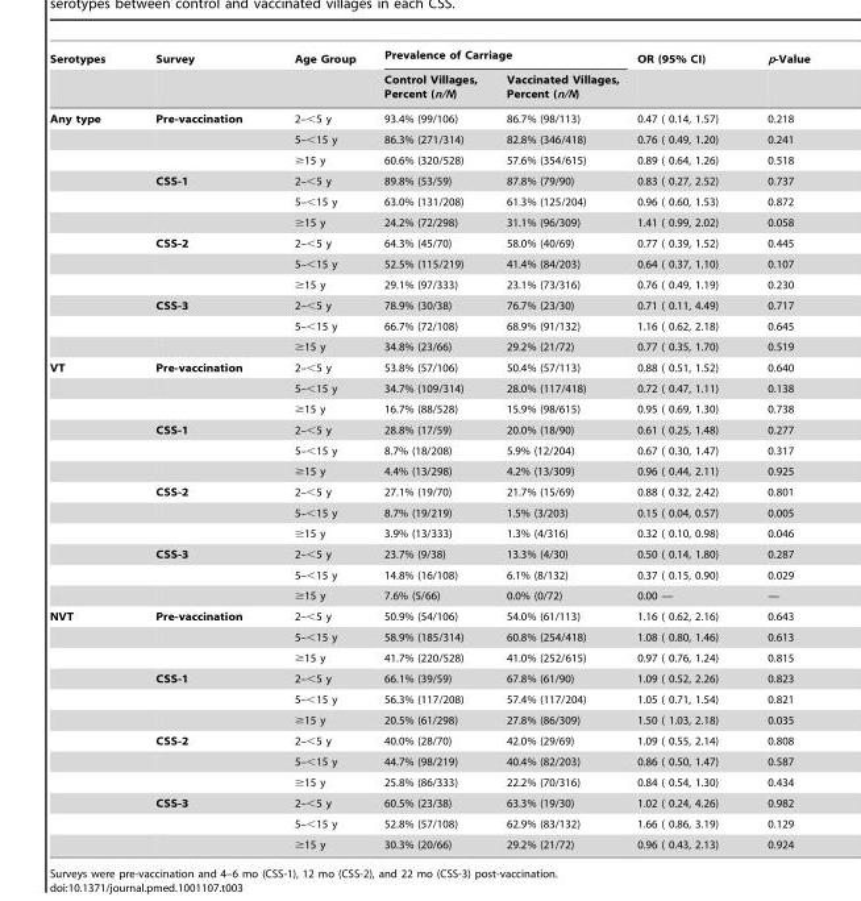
<table><thead><tr><td rowspan="2">Serotypes</td><td rowspan="2">Survey</td><td rowspan="2">Age Group</td><td colspan="2">Prevalence of Carriage</td><td rowspan="2">OR (95% CI)</td><td rowspan="2">p-Value</td></tr><tr><td>Control Villages, Percent (n/N)</td><td>Vaccinated Villages, Percent (n/N)</td></tr></thead><tbody><tr><td rowspan="12">Any type</td><td>Pre-vaccination</td><td>2–&lt;5 y</td><td>93.4% (99/106)</td><td>86.7% (98/113)</td><td>0.47 ( 0.14, 1.57)</td><td>0.218</td></tr><tr><td></td><td>5–&lt;15 y</td><td>86.3% (271/314)</td><td>82.8% (346/418)</td><td>0.76 ( 0.49, 1.20)</td><td>0.241</td></tr><tr><td></td><td>≥15 y</td><td>60.6% (320/528)</td><td>57.6% (354/615)</td><td>0.89 ( 0.64, 1.26)</td><td>0.518</td></tr><tr><td>CSS-1</td><td>2–&lt;5 y</td><td>89.8% (53/59)</td><td>87.8% (79/90)</td><td>0.83 ( 0.27, 2.52)</td><td>0.737</td></tr><tr><td></td><td>5–&lt;15 y</td><td>63.0% (131/208)</td><td>61.3% (125/204)</td><td>0.96 ( 0.60, 1.53)</td><td>0.872</td></tr><tr><td></td><td>≥15 y</td><td>24.2% (72/298)</td><td>31.1% (96/309)</td><td>1.41 ( 0.99, 2.02)</td><td>0.058</td></tr><tr><td>CSS-2</td><td>2–&lt;5 y</td><td>64.3% (45/70)</td><td>58.0% (40/69)</td><td>0.77 ( 0.39, 1.52)</td><td>0.445</td></tr><tr><td></td><td>5–&lt;15 y</td><td>52.5% (115/219)</td><td>41.4% (84/203)</td><td>0.64 ( 0.37, 1.10)</td><td>0.107</td></tr><tr><td></td><td>≥15 y</td><td>29.1% (97/333)</td><td>23.1% (73/316)</td><td>0.76 ( 0.49, 1.19)</td><td>0.230</td></tr><tr><td>CSS-3</td><td>2–&lt;5 y</td><td>78.9% (30/38)</td><td>76.7% (23/30)</td><td>0.71 ( 0.11, 4.49)</td><td>0.717</td></tr><tr><td></td><td>5–&lt;15 y</td><td>66.7% (72/108)</td><td>68.9% (91/132)</td><td>1.16 ( 0.62, 2.18)</td><td>0.645</td></tr><tr><td></td><td>≥15 y</td><td>34.8% (23/66)</td><td>29.2% (21/72)</td><td>0.77 ( 0.35, 1.70)</td><td>0.519</td></tr><tr><td rowspan="12">VT</td><td>Pre-vaccination</td><td>2–&lt;5 y</td><td>53.8% (57/106)</td><td>50.4% (57/113)</td><td>0.88 ( 0.51, 1.52)</td><td>0.640</td></tr><tr><td></td><td>5–&lt;15 y</td><td>34.7% (109/314)</td><td>28.0% (117/418)</td><td>0.72 ( 0.47, 1.11)</td><td>0.138</td></tr><tr><td></td><td>≥15 y</td><td>16.7% (88/528)</td><td>15.9% (98/615)</td><td>0.95 ( 0.69, 1.30)</td><td>0.738</td></tr><tr><td>CSS-1</td><td>2–&lt;5 y</td><td>28.8% (17/59)</td><td>20.0% (18/90)</td><td>0.61 ( 0.25, 1.48)</td><td>0.277</td></tr><tr><td></td><td>5–&lt;15 y</td><td>8.7% (18/208)</td><td>5.9% (12/204)</td><td>0.67 ( 0.30, 1.47)</td><td>0.317</td></tr><tr><td></td><td>≥15 y</td><td>4.4% (13/298)</td><td>4.2% (13/309)</td><td>0.96 ( 0.44, 2.11)</td><td>0.925</td></tr><tr><td>CSS-2</td><td>2–&lt;5 y</td><td>27.1% (19/70)</td><td>21.7% (15/69)</td><td>0.88 ( 0.32, 2.42)</td><td>0.801</td></tr><tr><td></td><td>5–&lt;15 y</td><td>8.7% (19/219)</td><td>1.5% (3/203)</td><td>0.15 ( 0.04, 0.57)</td><td>0.005</td></tr><tr><td></td><td>≥15 y</td><td>3.9% (13/333)</td><td>1.3% (4/316)</td><td>0.32 ( 0.10, 0.98)</td><td>0.046</td></tr><tr><td>CSS-3</td><td>2–&lt;5 y</td><td>23.7% (9/38)</td><td>13.3% (4/30)</td><td>0.50 ( 0.14, 1.80)</td><td>0.287</td></tr><tr><td></td><td>5–&lt;15 y</td><td>14.8% (16/108)</td><td>6.1% (8/132)</td><td>0.37 ( 0.15, 0.90)</td><td>0.029</td></tr><tr><td></td><td>≥15 y</td><td>7.6% (5/66)</td><td>0.0% (0/72)</td><td>0.00 —</td><td>—</td></tr><tr><td rowspan="12">NVT</td><td>Pre-vaccination</td><td>2–&lt;5 y</td><td>50.9% (54/106)</td><td>54.0% (61/113)</td><td>1.16 ( 0.62, 2.16)</td><td>0.643</td></tr><tr><td></td><td>5–&lt;15 y</td><td>58.9% (185/314)</td><td>60.8% (254/418)</td><td>1.08 ( 0.80, 1.46)</td><td>0.613</td></tr><tr><td></td><td>≥15 y</td><td>41.7% (220/528)</td><td>41.0% (252/615)</td><td>0.97 ( 0.76, 1.24)</td><td>0.815</td></tr><tr><td>CSS-1</td><td>2–&lt;5 y</td><td>66.1% (39/59)</td><td>67.8% (61/90)</td><td>1.09 ( 0.52, 2.26)</td><td>0.823</td></tr><tr><td></td><td>5–&lt;15 y</td><td>56.3% (117/208)</td><td>57.4% (117/204)</td><td>1.05 ( 0.71, 1.54)</td><td>0.821</td></tr><tr><td></td><td>≥15 y</td><td>20.5% (61/298)</td><td>27.8% (86/309)</td><td>1.50 ( 1.03, 2.18)</td><td>0.035</td></tr><tr><td>CSS-2</td><td>2–&lt;5 y</td><td>40.0% (28/70)</td><td>42.0% (29/69)</td><td>1.09 ( 0.55, 2.14)</td><td>0.808</td></tr><tr><td></td><td>5–&lt;15 y</td><td>44.7% (98/219)</td><td>40.4% (82/203)</td><td>0.86 ( 0.50, 1.47)</td><td>0.587</td></tr><tr><td></td><td>≥15 y</td><td>25.8% (86/333)</td><td>22.2% (70/316)</td><td>0.84 ( 0.54, 1.30)</td><td>0.434</td></tr><tr><td>CSS-3</td><td>2–&lt;5 y</td><td>60.5% (23/38)</td><td>63.3% (19/30)</td><td>1.02 ( 0.24, 4.26)</td><td>0.982</td></tr><tr><td></td><td>5–&lt;15 y</td><td>52.8% (57/108)</td><td>62.9% (83/132)</td><td>1.66 ( 0.86, 3.19)</td><td>0.129</td></tr><tr><td></td><td>≥15 y</td><td>30.3% (20/66)</td><td>29.2% (21/72)</td><td>0.96 ( 0.43, 2.13)</td><td>0.924</td></tr></tbody></table>